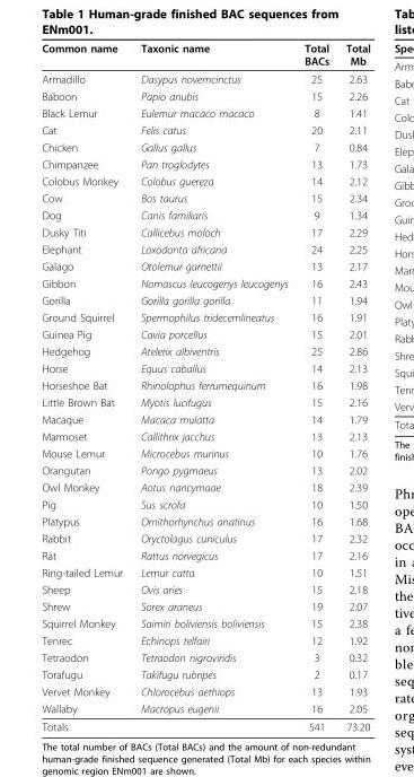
<table><thead><tr><td>Common name</td><td>Taxonic name</td><td>Total BACs</td><td>Total Mb</td></tr></thead><tbody><tr><td>Armadillo</td><td>Dasypus novemcinctus</td><td>25</td><td>2.63</td></tr><tr><td>Baboon</td><td>Papio anubis</td><td>15</td><td>2.26</td></tr><tr><td>Black Lemur</td><td>Eulemur macaco macaco</td><td>8</td><td>1.41</td></tr><tr><td>Cat</td><td>Felis catus</td><td>20</td><td>2.11</td></tr><tr><td>Chicken</td><td>Gallus gallus</td><td>7</td><td>0.84</td></tr><tr><td>Chimpanzee</td><td>Pan troglodytes</td><td>13</td><td>1.73</td></tr><tr><td>Colobus Monkey</td><td>Colobus guereza</td><td>14</td><td>2.12</td></tr><tr><td>Cow</td><td>Bos taurus</td><td>15</td><td>2.34</td></tr><tr><td>Dog</td><td>Canis familiaris</td><td>9</td><td>1.34</td></tr><tr><td>Dusky Titi</td><td>Callicebus moloch</td><td>17</td><td>2.29</td></tr><tr><td>Elephant</td><td>Loxodonta africana</td><td>24</td><td>2.25</td></tr><tr><td>Galago</td><td>Otolemur garnettii</td><td>13</td><td>2.17</td></tr><tr><td>Gibbon</td><td>Nomascus leucogenys leucogenys</td><td>16</td><td>2.43</td></tr><tr><td>Gorilla</td><td>Gorilla gorilla gorilla</td><td>11</td><td>1.94</td></tr><tr><td>Ground Squirrel</td><td>Spermophilus tridecemlineatus</td><td>16</td><td>1.91</td></tr><tr><td>Guinea Pig</td><td>Cavia porcellus</td><td>15</td><td>2.01</td></tr><tr><td>Hedgehog</td><td>Atelerix albiventris</td><td>25</td><td>2.86</td></tr><tr><td>Horse</td><td>Equus caballus</td><td>14</td><td>2.13</td></tr><tr><td>Horseshoe Bat</td><td>Rhinolophus ferrumequinum</td><td>16</td><td>1.98</td></tr><tr><td>Little Brown Bat</td><td>Myotis lucifugus</td><td>15</td><td>2.16</td></tr><tr><td>Macaque</td><td>Macaca mulatta</td><td>14</td><td>1.79</td></tr><tr><td>Marmoset</td><td>Callithrix jacchus</td><td>13</td><td>2.13</td></tr><tr><td>Mouse Lemur</td><td>Microcebus murinus</td><td>10</td><td>1.76</td></tr><tr><td>Orangutan</td><td>Pongo pygmaeus</td><td>13</td><td>2.02</td></tr><tr><td>Owl Monkey</td><td>Aotus nancymaae</td><td>18</td><td>2.39</td></tr><tr><td>Pig</td><td>Sus scrofa</td><td>10</td><td>1.50</td></tr><tr><td>Platypus</td><td>Ornithorhynchus anatinus</td><td>16</td><td>1.68</td></tr><tr><td>Rabbit</td><td>Oryctolagus cuniculus</td><td>17</td><td>2.32</td></tr><tr><td>Rat</td><td>Rattus norvegicus</td><td>17</td><td>2.16</td></tr><tr><td>Ring-tailed Lemur</td><td>Lemur catta</td><td>10</td><td>1.51</td></tr><tr><td>Sheep</td><td>Ovis aries</td><td>15</td><td>2.18</td></tr><tr><td>Shrew</td><td>Sorex araneus</td><td>19</td><td>2.07</td></tr><tr><td>Squirrel Monkey</td><td>Saimiri boliviensis boliviensis</td><td>15</td><td>2.38</td></tr><tr><td>Tenrec</td><td>Echinops telfairi</td><td>12</td><td>1.92</td></tr><tr><td>Tetraodon</td><td>Tetraodon nigroviridis</td><td>3</td><td>0.32</td></tr><tr><td>Torafugu</td><td>Takifugu rubripes</td><td>2</td><td>0.17</td></tr><tr><td>Vervet Monkey</td><td>Chlorocebus aethiops</td><td>13</td><td>1.93</td></tr><tr><td>Wallaby</td><td>Macropus eugenii</td><td>16</td><td>2.05</td></tr><tr><td>Totals</td><td></td><td>541</td><td>73.20</td></tr></tbody></table>